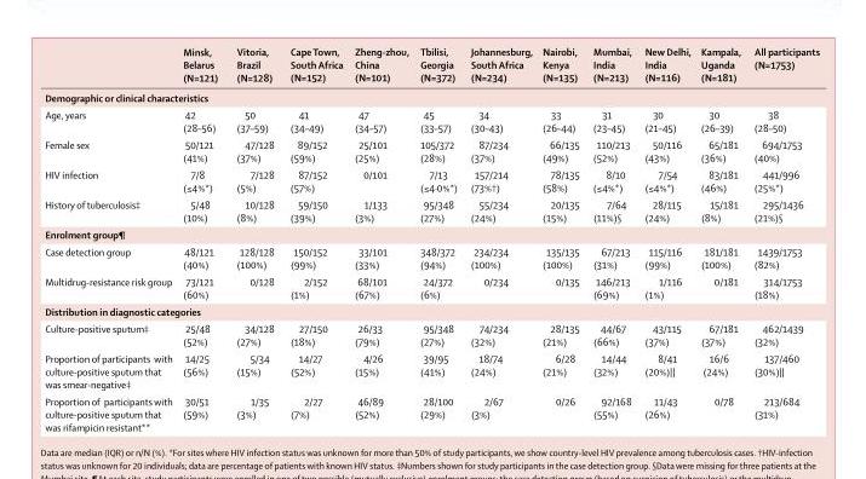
<table><thead><tr><td></td><td>Minsk, Belarus (N=121)</td><td>Vitoria, Brazil (N=128)</td><td>Cape Town, South Africa (N=152)</td><td>Zheng-zhou, China (N=101)</td><td>Tbilisi, Georgia (N=372)</td><td>Johannesburg, South Africa (N=234)</td><td>Nairobi, Kenya (N=135)</td><td>Mumbai, India (N=213)</td><td>New Delhi, India (N=116)</td><td>Kampala, Uganda (N=181)</td><td>All participants (N=1753)</td></tr></thead><tbody><tr><td colspan="12">Demographic or clinical characteristics</td></tr><tr><td>Age, years</td><td>42 (28–56)</td><td>50 (37–59)</td><td>41 (34–49)</td><td>47 (34–57)</td><td>45 (33–57)</td><td>34 (30–43)</td><td>33 (26–44)</td><td>31 (23–45)</td><td>30 (21–45)</td><td>30 (26–39)</td><td>38 (28–50)</td></tr><tr><td>Female sex</td><td>50/121 (41%)</td><td>47/128 (37%)</td><td>89/152 (59%)</td><td>25/101 (25%)</td><td>105/372 (28%)</td><td>87/234 (37%)</td><td>66/135 (49%)</td><td>110/213 (52%)</td><td>50/116 (43%)</td><td>65/181 (36%)</td><td>694/1753 (40%)</td></tr><tr><td>HIV infection</td><td>7/8 (≤4%*)</td><td>7/128 (5%)</td><td>87/152 (57%)</td><td>0/101</td><td>7/13 (≤4·0%*)</td><td>157/214 (73%†)</td><td>78/135 (58%)</td><td>8/10 (≤4%*)</td><td>7/54 (≤4%*)</td><td>83/181 (46%)</td><td>441/996 (25%*)</td></tr><tr><td>History of tuberculosis‡</td><td>5/48 (10%)</td><td>10/128 (8%)</td><td>59/150 (39%)</td><td>1/133 (3%)</td><td>95/348 (27%)</td><td>55/234 (24%)</td><td>20/135 (15%)</td><td>7/64 (11%)§</td><td>28/115 (24%)</td><td>15/181 (8%)</td><td>295/1436 (21%)§</td></tr><tr><td colspan="12">Enrolment group¶</td></tr><tr><td>Case detection group</td><td>48/121 (40%)</td><td>128/128 (100%)</td><td>150/152 (99%)</td><td>33/101 (33%)</td><td>348/372 (94%)</td><td>234/234 (100%)</td><td>135/135 (100%)</td><td>67/213 (31%)</td><td>115/116 (99%)</td><td>181/181 (100%)</td><td>1439/1753 (82%)</td></tr><tr><td>Multidrug-resistance risk group</td><td>73/121 (60%)</td><td>0/128</td><td>2/152 (1%)</td><td>68/101 (67%)</td><td>24/372 (6%)</td><td>0/234</td><td>0/135</td><td>146/213 (69%)</td><td>1/116 (1%)</td><td>0/181</td><td>314/1753 (18%)</td></tr><tr><td colspan="12">Distribution in diagnostic categories</td></tr><tr><td>Culture-positive sputum‡</td><td>25/48 (52%)</td><td>34/128 (27%)</td><td>27/150 (18%)</td><td>26/33 (79%)</td><td>95/348 (27%)</td><td>74/234 (32%)</td><td>28/135 (21%)</td><td>44/67 (66%)</td><td>43/115 (37%)</td><td>67/181 (37%)</td><td>462/1439 (32%)</td></tr><tr><td>Proportion of participants with culture-positive sputum that was smear-negative‡</td><td>14/25 (56%)</td><td>5/34 (15%)</td><td>14/27 (52%)</td><td>4/26 (15%)</td><td>39/95 (41%)</td><td>18/74 (24%)</td><td>6/28 (21%)</td><td>14/44 (32%)</td><td>8/41 (20%)||</td><td>16/6 (24%)</td><td>137/460 (30%)||</td></tr><tr><td>Proportion of participants with culture-positive sputum that was rifampicin resistant**</td><td>30/51 (59%)</td><td>1/35 (3%)</td><td>2/27 (7%)</td><td>46/89 (52%)</td><td>28/100 (29%)</td><td>2/67 (3%)</td><td>0/26</td><td>92/168 (55%)</td><td>11/43 (26%)</td><td>0/78</td><td>213/684 (31%)</td></tr></tbody></table>